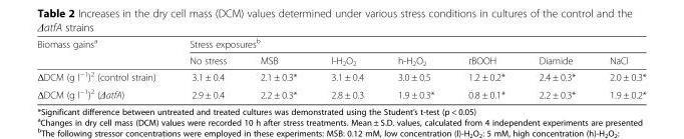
<table><thead><tr><td rowspan="2">Biomass gains<sup>a</sup></td><td colspan="7">Stress exposures<sup>b</sup></td></tr><tr><td>No stress</td><td>MSB</td><td>l-H<sub>2</sub>O<sub>2</sub></td><td>h-H<sub>2</sub>O<sub>2</sub></td><td>tBOOH</td><td>Diamide</td><td>NaCl</td></tr></thead><tbody><tr><td>ΔDCM (g l<sup>−1</sup>)<sup>2</sup> (control strain)</td><td>3.1 ± 0.4</td><td>2.1 ± 0.3*</td><td>3.1 ± 0.4</td><td>3.0 ± 0.5</td><td>1.2 ± 0.2*</td><td>2.4 ± 0.3*</td><td>2.0 ± 0.3*</td></tr><tr><td>ΔDCM (g l<sup>−1</sup>)<sup>2</sup> (ΔatfA)</td><td>2.9 ± 0.4</td><td>2.2 ± 0.3*</td><td>2.8 ± 0.3</td><td>1.9 ± 0.3*</td><td>0.8 ± 0.1*</td><td>2.2 ± 0.3*</td><td>1.9 ± 0.2*</td></tr></tbody></table>